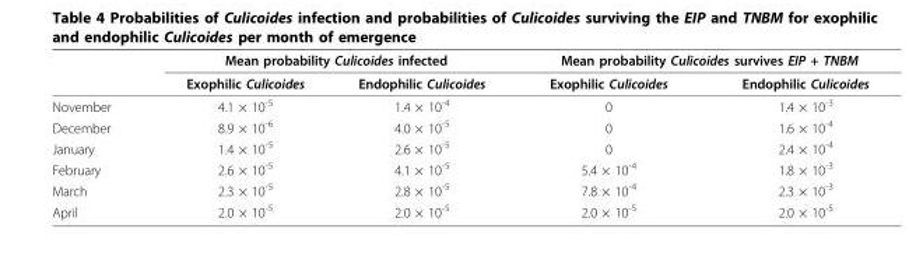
<table><thead><tr><td rowspan="2"></td><td colspan="2">Mean probability Culicoides infected</td><td colspan="2">Mean probability Culicoides survives EIP + TNBM</td></tr><tr><td>Exophilic Culicoides</td><td>Endophilic Culicoides</td><td>Exophilic Culicoides</td><td>Endophilic Culicoides</td></tr></thead><tbody><tr><td>November</td><td>4.1 × 10<sup>-5</sup></td><td>1.4 × 10<sup>-4</sup></td><td>0</td><td>1.4 × 10<sup>-3</sup></td></tr><tr><td>December</td><td>8.9 × 10<sup>-6</sup></td><td>4.0 × 10<sup>-5</sup></td><td>0</td><td>1.6 × 10<sup>-4</sup></td></tr><tr><td>January</td><td>1.4 × 10<sup>-5</sup></td><td>2.6 × 10<sup>-5</sup></td><td>0</td><td>2.4 × 10<sup>-4</sup></td></tr><tr><td>February</td><td>2.6 × 10<sup>-5</sup></td><td>4.1 × 10<sup>-5</sup></td><td>5.4 × 10<sup>-4</sup></td><td>1.8 × 10<sup>-3</sup></td></tr><tr><td>March</td><td>2.3 × 10<sup>-5</sup></td><td>2.8 × 10<sup>-5</sup></td><td>7.8 × 10<sup>-4</sup></td><td>2.3 × 10<sup>-3</sup></td></tr><tr><td>April</td><td>2.0 × 10<sup>-5</sup></td><td>2.0 × 10<sup>-5</sup></td><td>2.0 × 10<sup>-5</sup></td><td>2.0 × 10<sup>-5</sup></td></tr></tbody></table>